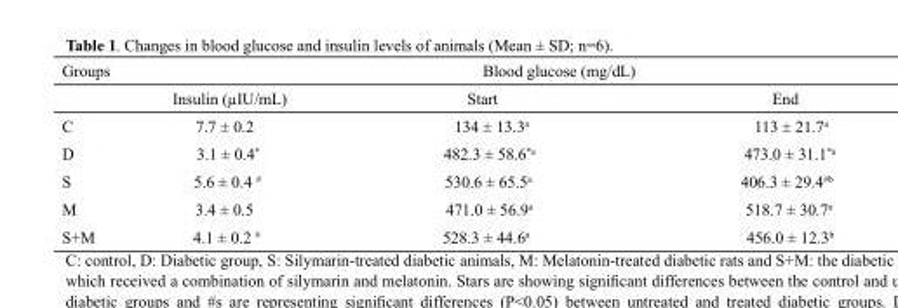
<table><thead><tr><td rowspan="2" colspan="2">Groups Insulin (µIU/mL)</td><td colspan="2">Blood glucose (mg/dL)</td></tr><tr><td rowspan="2">Start 134 ± 13.3a</td><td rowspan="2">End 113 ± 21.7<sup>a</sup></td></tr><tr><td>C</td><td>7.7 ± 0.2</td></tr></thead><tbody><tr><td>D</td><td>3.1 ± 0.4*</td><td>482.3 ± 58.6*<sup>a</sup></td><td>473.0 ± 31.1<sup>*a</sup></td></tr><tr><td>S</td><td>5.6 ± 0.4 #</td><td>530.6 ± 65.5<sup>a</sup></td><td>406.3 ± 29.4#<sup>b</sup></td></tr><tr><td>M</td><td>3.4 ± 0.5</td><td>471.0 ± 56.9<sup>a</sup></td><td>518.7 ± 30.7<sup>a</sup></td></tr><tr><td>S+M</td><td>4.1 ± 0.2 #</td><td>528.3 ± 44.6<sup>a</sup></td><td>456.0 ± 12.3<sup>b</sup></td></tr></tbody></table>